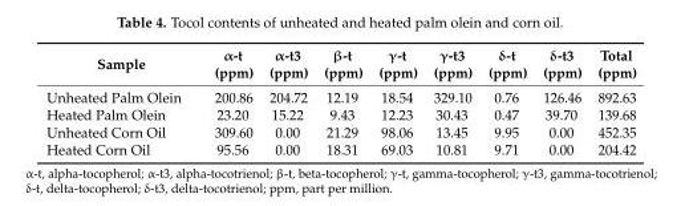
<table><thead><tr><td>Sample</td><td>α-t (ppm)</td><td>α-t3 (ppm)</td><td>β-t (ppm)</td><td>γ-t (ppm)</td><td>γ-t3 (ppm)</td><td>δ-t (ppm)</td><td>δ-t3 (ppm)</td><td>Total (ppm)</td></tr></thead><tbody><tr><td>Unheated Palm Olein</td><td>200.86</td><td>204.72</td><td>12.19</td><td>18.54</td><td>329.10</td><td>0.76</td><td>126.46</td><td>892.63</td></tr><tr><td>Heated Palm Olein</td><td>23.20</td><td>15.22</td><td>9.43</td><td>12.23</td><td>30.43</td><td>0.47</td><td>39.70</td><td>139.68</td></tr><tr><td>Unheated Corn Oil</td><td>309.60</td><td>0.00</td><td>21.29</td><td>98.06</td><td>13.45</td><td>9.95</td><td>0.00</td><td>452.35</td></tr><tr><td>Heated Corn Oil</td><td>95.56</td><td>0.00</td><td>18.31</td><td>69.03</td><td>10.81</td><td>9.71</td><td>0.00</td><td>204.42</td></tr></tbody></table>